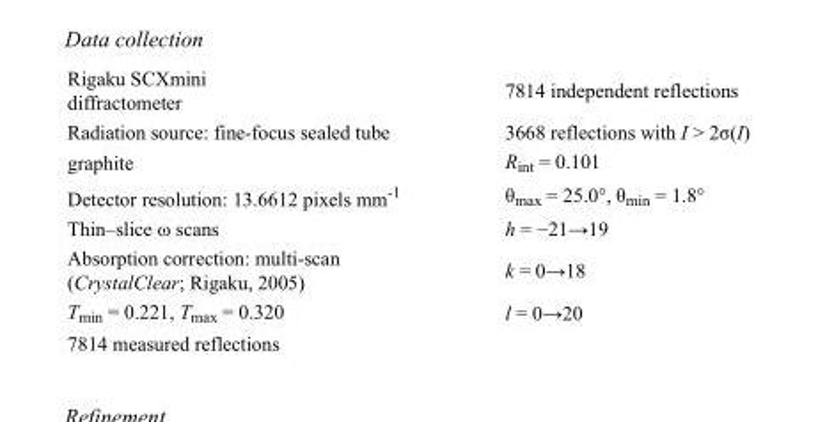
<table><tbody><tr><td>Rigaku SCXmini diffractometer</td><td>7814 independent reflections</td></tr><tr><td>Radiation source: fine-focus sealed tube</td><td>3668 reflections with I &gt; 2σ(I)</td></tr><tr><td>graphite</td><td>R<sub>int</sub> = 0.101</td></tr><tr><td>Detector resolution: 13.6612 pixels mm<sup>-1</sup></td><td>θ<sub>max</sub> = 25.0°, θ<sub>min</sub> = 1.8°</td></tr><tr><td>Thin–slice ω scans</td><td>h = −21→19</td></tr><tr><td>Absorption correction: multi-scan (CrystalClear; Rigaku, 2005)</td><td>k = 0→18</td></tr><tr><td>T<sub>min</sub> = 0.221, T<sub>max</sub> = 0.320</td><td>l = 0→20</td></tr><tr><td>7814 measured reflections</td><td></td></tr></tbody></table>